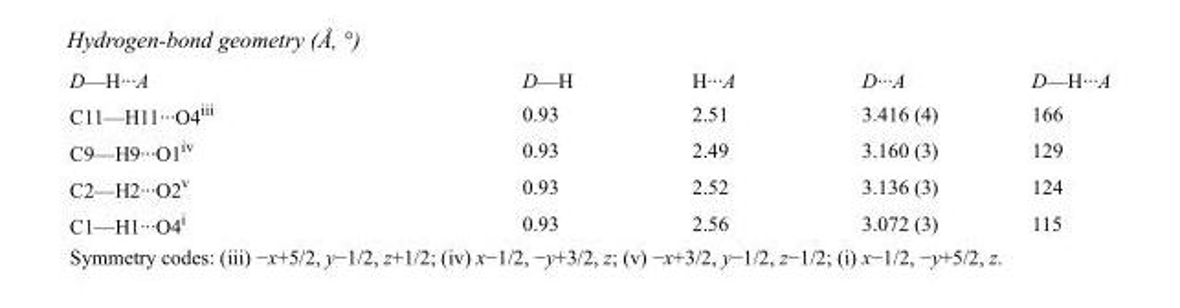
<table><tbody><tr><td>D—H···A</td><td>D—H</td><td>H···A</td><td>D···A</td><td>D—H···A</td></tr><tr><td>C11—H11···O4<sup>iii</sup></td><td>0.93</td><td>2.51</td><td>3.416 (4)</td><td>166</td></tr><tr><td>C9—H9···O1<sup>iv</sup></td><td>0.93</td><td>2.49</td><td>3.160 (3)</td><td>129</td></tr><tr><td>C2—H2···O2<sup>v</sup></td><td>0.93</td><td>2.52</td><td>3.136 (3)</td><td>124</td></tr><tr><td>C1—H1···O4<sup>i</sup></td><td>0.93</td><td>2.56</td><td>3.072 (3)</td><td>115</td></tr></tbody></table>